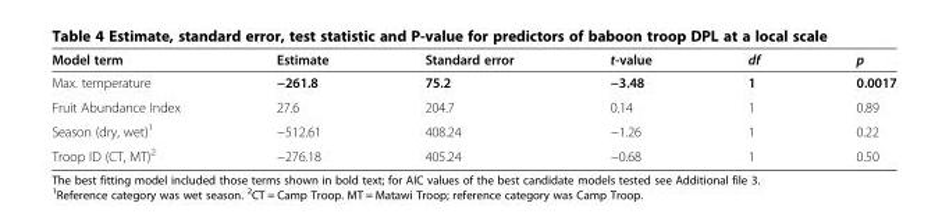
<table><thead><tr><td>Model term</td><td>Estimate</td><td>Standard error</td><td>t-value</td><td>df</td><td>p</td></tr></thead><tbody><tr><td>Max. temperature</td><td>−261.8</td><td>75.2</td><td>−3.48</td><td>1</td><td>0.0017</td></tr><tr><td>Fruit Abundance Index</td><td>27.6</td><td>204.7</td><td>0.14</td><td>1</td><td>0.89</td></tr><tr><td>Season (dry, wet)<sup>1</sup></td><td>−512.61</td><td>408.24</td><td>−1.26</td><td>1</td><td>0.22</td></tr><tr><td>Troop ID (CT, MT)<sup>2</sup></td><td>−276.18</td><td>405.24</td><td>−0.68</td><td>1</td><td>0.50</td></tr></tbody></table>